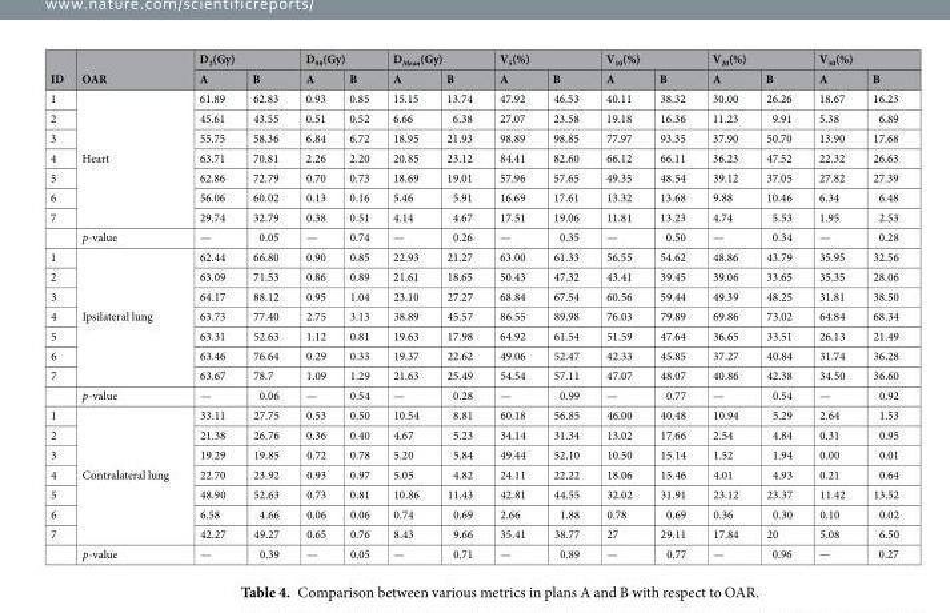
<table><thead><tr><td rowspan="2">ID</td><td rowspan="2">OAR</td><td colspan="2">D<sub>2</sub>(Gy)</td><td colspan="2">D<sub>98</sub>(Gy)</td><td colspan="2">D<sub>Mean</sub>(Gy)</td><td colspan="2">V<sub>5</sub>(%)</td><td colspan="2">V<sub>10</sub>(%)</td><td colspan="2">V<sub>20</sub>(%)</td><td colspan="2">V<sub>30</sub>(%)</td></tr><tr><td>A</td><td>B</td><td>A</td><td>B</td><td>A</td><td>B</td><td>A</td><td>B</td><td>A</td><td>B</td><td>A</td><td>B</td><td>A</td><td>B</td></tr></thead><tbody><tr><td>1</td><td rowspan="7">Heart</td><td>61.89</td><td>62.83</td><td>0.93</td><td>0.85</td><td>15.15</td><td>13.74</td><td>47.92</td><td>46.53</td><td>40.11</td><td>38.32</td><td>30.00</td><td>26.26</td><td>18.67</td><td>16.23</td></tr><tr><td>2</td><td>45.61</td><td>43.55</td><td>0.51</td><td>0.52</td><td>6.66</td><td>6.38</td><td>27.07</td><td>23.58</td><td>19.18</td><td>16.36</td><td>11.23</td><td>9.91</td><td>5.38</td><td>6.89</td></tr><tr><td>3</td><td>55.75</td><td>58.36</td><td>6.84</td><td>6.72</td><td>18.95</td><td>21.93</td><td>98.89</td><td>98.85</td><td>77.97</td><td>93.35</td><td>37.90</td><td>50.70</td><td>13.90</td><td>17.68</td></tr><tr><td>4</td><td>63.71</td><td>70.81</td><td>2.26</td><td>2.20</td><td>20.85</td><td>23.12</td><td>84.41</td><td>82.60</td><td>66.12</td><td>66.11</td><td>36.23</td><td>47.52</td><td>22.32</td><td>26.63</td></tr><tr><td>5</td><td>62.86</td><td>72.79</td><td>0.70</td><td>0.73</td><td>18.69</td><td>19.01</td><td>57.96</td><td>57.65</td><td>49.35</td><td>48.54</td><td>39.12</td><td>37.05</td><td>27.82</td><td>27.39</td></tr><tr><td>6</td><td>56.06</td><td>60.02</td><td>0.13</td><td>0.16</td><td>5.46</td><td>5.91</td><td>16.69</td><td>17.61</td><td>13.32</td><td>13.68</td><td>9.88</td><td>10.46</td><td>6.34</td><td>6.48</td></tr><tr><td rowspan="2">7</td><td>29.74</td><td>32.79</td><td>0.38</td><td>0.51</td><td>4.14</td><td>4.67</td><td>17.51</td><td>19.06</td><td>11.81</td><td>13.23</td><td>4.74</td><td>5.53</td><td>1.95</td><td>2.53</td></tr><tr><td>p-value</td><td>—</td><td>0.05</td><td>—</td><td>0.74</td><td>—</td><td>0.26</td><td>—</td><td>0.35</td><td>—</td><td>0.50</td><td>—</td><td>0.34</td><td>—</td><td>0.28</td></tr><tr><td>1</td><td rowspan="7">Ipsilateral lung</td><td>62.44</td><td>66.80</td><td>0.90</td><td>0.85</td><td>22.93</td><td>21.27</td><td>63.00</td><td>61.33</td><td>56.55</td><td>54.62</td><td>48.86</td><td>43.79</td><td>35.95</td><td>32.56</td></tr><tr><td>2</td><td>63.09</td><td>71.53</td><td>0.86</td><td>0.89</td><td>21.61</td><td>18.65</td><td>50.43</td><td>47.32</td><td>43.41</td><td>39.45</td><td>39.06</td><td>33.65</td><td>35.35</td><td>28.06</td></tr><tr><td>3</td><td>64.17</td><td>88.12</td><td>0.95</td><td>1.04</td><td>23.10</td><td>27.27</td><td>68.84</td><td>67.54</td><td>60.56</td><td>59.44</td><td>49.39</td><td>48.25</td><td>31.81</td><td>38.50</td></tr><tr><td>4</td><td>63.73</td><td>77.40</td><td>2.75</td><td>3.13</td><td>38.89</td><td>45.57</td><td>86.55</td><td>89.98</td><td>76.03</td><td>79.89</td><td>69.86</td><td>73.02</td><td>64.84</td><td>68.34</td></tr><tr><td>5</td><td>63.31</td><td>52.63</td><td>1.12</td><td>0.81</td><td>19.63</td><td>17.98</td><td>64.92</td><td>61.54</td><td>51.59</td><td>47.64</td><td>36.65</td><td>33.51</td><td>26.13</td><td>21.49</td></tr><tr><td>6</td><td>63.46</td><td>76.64</td><td>0.29</td><td>0.33</td><td>19.37</td><td>22.62</td><td>49.06</td><td>52.47</td><td>42.33</td><td>45.85</td><td>37.27</td><td>40.84</td><td>31.74</td><td>36.28</td></tr><tr><td rowspan="2">7</td><td>63.67</td><td>78.7</td><td>1.09</td><td>1.29</td><td>21.63</td><td>25.49</td><td>54.54</td><td>57.11</td><td>47.07</td><td>48.07</td><td>40.86</td><td>42.38</td><td>34.50</td><td>36.60</td></tr><tr><td>p-value</td><td>—</td><td>0.06</td><td>—</td><td>0.54</td><td>—</td><td>0.28</td><td>—</td><td>0.99</td><td>—</td><td>0.77</td><td>—</td><td>0.54</td><td>—</td><td>0.92</td></tr><tr><td>1</td><td rowspan="7">Contralateral lung</td><td>33.11</td><td>27.75</td><td>0.53</td><td>0.50</td><td>10.54</td><td>8.81</td><td>60.18</td><td>56.85</td><td>46.00</td><td>40.48</td><td>10.94</td><td>5.29</td><td>2.64</td><td>1.53</td></tr><tr><td>2</td><td>21.38</td><td>26.76</td><td>0.36</td><td>0.40</td><td>4.67</td><td>5.23</td><td>34.14</td><td>31.34</td><td>13.02</td><td>17.66</td><td>2.54</td><td>4.84</td><td>0.31</td><td>0.95</td></tr><tr><td>3</td><td>19.29</td><td>19.85</td><td>0.72</td><td>0.78</td><td>5.20</td><td>5.84</td><td>49.44</td><td>52.10</td><td>10.50</td><td>15.14</td><td>1.52</td><td>1.94</td><td>0.00</td><td>0.01</td></tr><tr><td>4</td><td>22.70</td><td>23.92</td><td>0.93</td><td>0.97</td><td>5.05</td><td>4.82</td><td>24.11</td><td>22.22</td><td>18.06</td><td>15.46</td><td>4.01</td><td>4.93</td><td>0.21</td><td>0.64</td></tr><tr><td>5</td><td>48.90</td><td>52.63</td><td>0.73</td><td>0.81</td><td>10.86</td><td>11.43</td><td>42.81</td><td>44.55</td><td>32.02</td><td>31.91</td><td>23.12</td><td>23.37</td><td>11.42</td><td>13.52</td></tr><tr><td>6</td><td>6.58</td><td>4.66</td><td>0.06</td><td>0.06</td><td>0.74</td><td>0.69</td><td>2.66</td><td>1.88</td><td>0.78</td><td>0.69</td><td>0.36</td><td>0.30</td><td>0.10</td><td>0.02</td></tr><tr><td rowspan="2">7</td><td>42.27</td><td>49.27</td><td>0.65</td><td>0.76</td><td>8.43</td><td>9.66</td><td>35.41</td><td>38.77</td><td>27</td><td>29.11</td><td>17.84</td><td>20</td><td>5.08</td><td>6.50</td></tr><tr><td>p-value</td><td>—</td><td>0.39</td><td>—</td><td>0.05</td><td>—</td><td>0.71</td><td>—</td><td>0.89</td><td>—</td><td>0.77</td><td>—</td><td>0.96</td><td>—</td><td>0.27</td></tr></tbody></table>